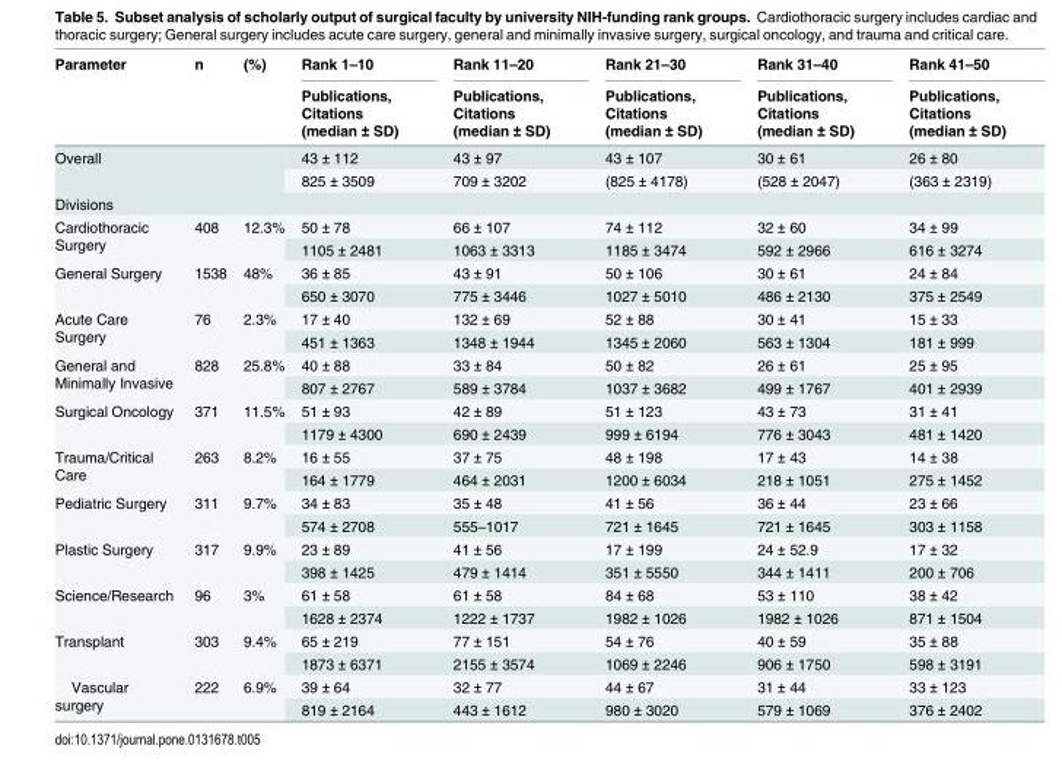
<table><thead><tr><td rowspan="2">Parameter</td><td rowspan="2">n</td><td rowspan="2">(%)</td><td rowspan="2">Rank 1–10 Publications, Citations (median ± SD)</td><td rowspan="2">Rank 11–20 Publications, Citations (median ± SD)</td><td rowspan="2">Rank 21–30 Publications, Citations (median ± SD)</td><td rowspan="2">Rank 31–40 Publications, Citations (median ± SD)</td><td rowspan="2">Rank 41–50 Publications, Citations (median ± SD)</td></tr><tr></tr></thead><tbody><tr><td rowspan="2">Overall</td><td rowspan="2"></td><td rowspan="2"></td><td>43 ± 112</td><td>43 ± 97</td><td>43 ± 107</td><td>30 ± 61</td><td>26 ± 80</td></tr><tr><td>825 ± 3509</td><td>709 ± 3202</td><td>(825 ± 4178)</td><td>(528 ± 2047)</td><td>(363 ± 2319)</td></tr><tr><td colspan="8">Divisions</td></tr><tr><td rowspan="2">Cardiothoracic Surgery</td><td rowspan="2">408</td><td rowspan="2">12.3%</td><td>50 ± 78</td><td>66 ± 107</td><td>74 ± 112</td><td>32 ± 60</td><td>34 ± 99</td></tr><tr><td>1105 ± 2481</td><td>1063 ± 3313</td><td>1185 ± 3474</td><td>592 ± 2966</td><td>616 ± 3274</td></tr><tr><td rowspan="2">General Surgery</td><td rowspan="2">1538</td><td rowspan="2">48%</td><td>36 ± 85</td><td>43 ± 91</td><td>50 ± 106</td><td>30 ± 61</td><td>24 ± 84</td></tr><tr><td>650 ± 3070</td><td>775 ± 3446</td><td>1027 ± 5010</td><td>486 ± 2130</td><td>375 ± 2549</td></tr><tr><td rowspan="2">Acute Care Surgery</td><td rowspan="2">76</td><td rowspan="2">2.3%</td><td>17 ± 40</td><td>132 ± 69</td><td>52 ± 88</td><td>30 ± 41</td><td>15 ± 33</td></tr><tr><td>451 ± 1363</td><td>1348 ± 1944</td><td>1345 ± 2060</td><td>563 ± 1304</td><td>181 ± 999</td></tr><tr><td rowspan="2">General and Minimally Invasive</td><td rowspan="2">828</td><td rowspan="2">25.8%</td><td>40 ± 88</td><td>33 ± 84</td><td>50 ± 82</td><td>26 ± 61</td><td>25 ± 95</td></tr><tr><td>807 ± 2767</td><td>589 ± 3784</td><td>1037 ± 3682</td><td>499 ± 1767</td><td>401 ± 2939</td></tr><tr><td rowspan="2">Surgical Oncology</td><td rowspan="2">371</td><td rowspan="2">11.5%</td><td>51 ± 93</td><td>42 ± 89</td><td>51 ± 123</td><td>43 ± 73</td><td>31 ± 41</td></tr><tr><td>1179 ± 4300</td><td>690 ± 2439</td><td>999 ± 6194</td><td>776 ± 3043</td><td>481 ± 1420</td></tr><tr><td rowspan="2">Trauma/Critical Care</td><td rowspan="2">263</td><td rowspan="2">8.2%</td><td>16 ± 55</td><td>37 ± 75</td><td>48 ± 198</td><td>17 ± 43</td><td>14 ± 38</td></tr><tr><td>164 ± 1779</td><td>464 ± 2031</td><td>1200 ± 6034</td><td>218 ± 1051</td><td>275 ± 1452</td></tr><tr><td rowspan="2">Pediatric Surgery</td><td rowspan="2">311</td><td rowspan="2">9.7%</td><td>34 ± 83</td><td>35 ± 48</td><td>41 ± 56</td><td>36 ± 44</td><td>23 ± 66</td></tr><tr><td>574 ± 2708</td><td>555–1017</td><td>721 ± 1645</td><td>721 ± 1645</td><td>303 ± 1158</td></tr><tr><td rowspan="2">Plastic Surgery</td><td rowspan="2">317</td><td rowspan="2">9.9%</td><td>23 ± 89</td><td>41 ± 56</td><td>17 ± 199</td><td>24 ± 52.9</td><td>17 ± 32</td></tr><tr><td>398 ± 1425</td><td>479 ± 1414</td><td>351 ± 5550</td><td>344 ± 1411</td><td>200 ± 706</td></tr><tr><td rowspan="2">Science/Research</td><td rowspan="2">96</td><td rowspan="2">3%</td><td>61 ± 58</td><td>61 ± 58</td><td>84 ± 68</td><td>53 ± 110</td><td>38 ± 42</td></tr><tr><td>1628 ± 2374</td><td>1222 ± 1737</td><td>1982 ± 1026</td><td>1982 ± 1026</td><td>871 ± 1504</td></tr><tr><td rowspan="2">Transplant</td><td rowspan="2">303</td><td rowspan="2">9.4%</td><td>65 ± 219</td><td>77 ± 151</td><td>54 ± 76</td><td>40 ± 59</td><td>35 ± 88</td></tr><tr><td>1873 ± 6371</td><td>2155 ± 3574</td><td>1069 ± 2246</td><td>906 ± 1750</td><td>598 ± 3191</td></tr><tr><td rowspan="2">Vascular surgery</td><td rowspan="2">222</td><td rowspan="2">6.9%</td><td>39 ± 64</td><td>32 ± 77</td><td>44 ± 67</td><td>31 ± 44</td><td>33 ± 123</td></tr><tr><td>819 ± 2164</td><td>443 ± 1612</td><td>980 ± 3020</td><td>579 ± 1069</td><td>376 ± 2402</td></tr></tbody></table>